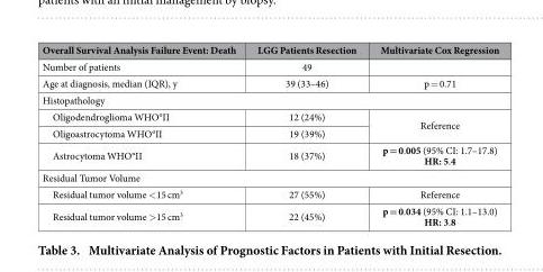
<table><thead><tr><td>Overall Survival Analysis Failure Event: Death</td><td>LGG Patients Resection</td><td>Multivariate Cox Regression</td></tr></thead><tbody><tr><td>Number of patients</td><td>49</td><td></td></tr><tr><td>Age at diagnosis, median (IQR), y</td><td>39 (33–46)</td><td>p = 0.71</td></tr><tr><td colspan="3">Histopathology</td></tr><tr><td>Oligodendroglioma WHO°II</td><td>12 (24%)</td><td rowspan="2">Reference</td></tr><tr><td>Oligoastrocytoma WHO°II</td><td>19 (39%)</td></tr><tr><td>Astrocytoma WHO°II</td><td>18 (37%)</td><td>p = 0.005 (95% CI: 1.7–17.8) HR: 5.4</td></tr><tr><td colspan="3">Residual Tumor Volume</td></tr><tr><td>Residual tumor volume &lt; 15 cm<sup>3</sup></td><td>27 (55%)</td><td>Reference</td></tr><tr><td>Residual tumor volume &gt; 15 cm<sup>3</sup></td><td>22 (45%)</td><td>p = 0.034 (95% CI: 1.1–13.0) HR: 3.8</td></tr></tbody></table>